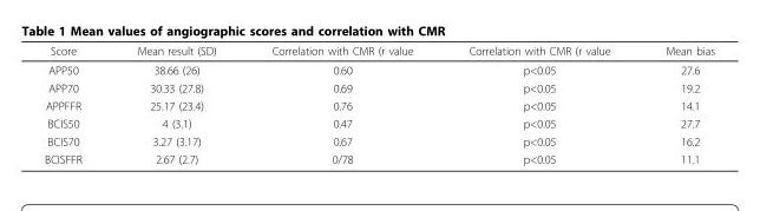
<table><thead><tr><td>Score</td><td>Mean result (SD)</td><td>Correlation with CMR (r value</td><td>Correlation with CMR (r value</td><td>Mean bias</td></tr></thead><tbody><tr><td>APP50</td><td>38.66 (26)</td><td>0.60</td><td>p&lt;0.05</td><td>27.6</td></tr><tr><td>APP70</td><td>30.33 (27.8)</td><td>0.69</td><td>p&lt;0.05</td><td>19.2</td></tr><tr><td>APPFFR</td><td>25.17 (23.4)</td><td>0.76</td><td>p&lt;0.05</td><td>14.1</td></tr><tr><td>BCIS50</td><td>4 (3.1)</td><td>0.47</td><td>p&lt;0.05</td><td>27.7</td></tr><tr><td>BCIS70</td><td>3.27 (3.17)</td><td>0.67</td><td>p&lt;0.05</td><td>16.2</td></tr><tr><td>BCISFFR</td><td>2.67 (2.7)</td><td>0/78</td><td>p&lt;0.05</td><td>11.1</td></tr></tbody></table>